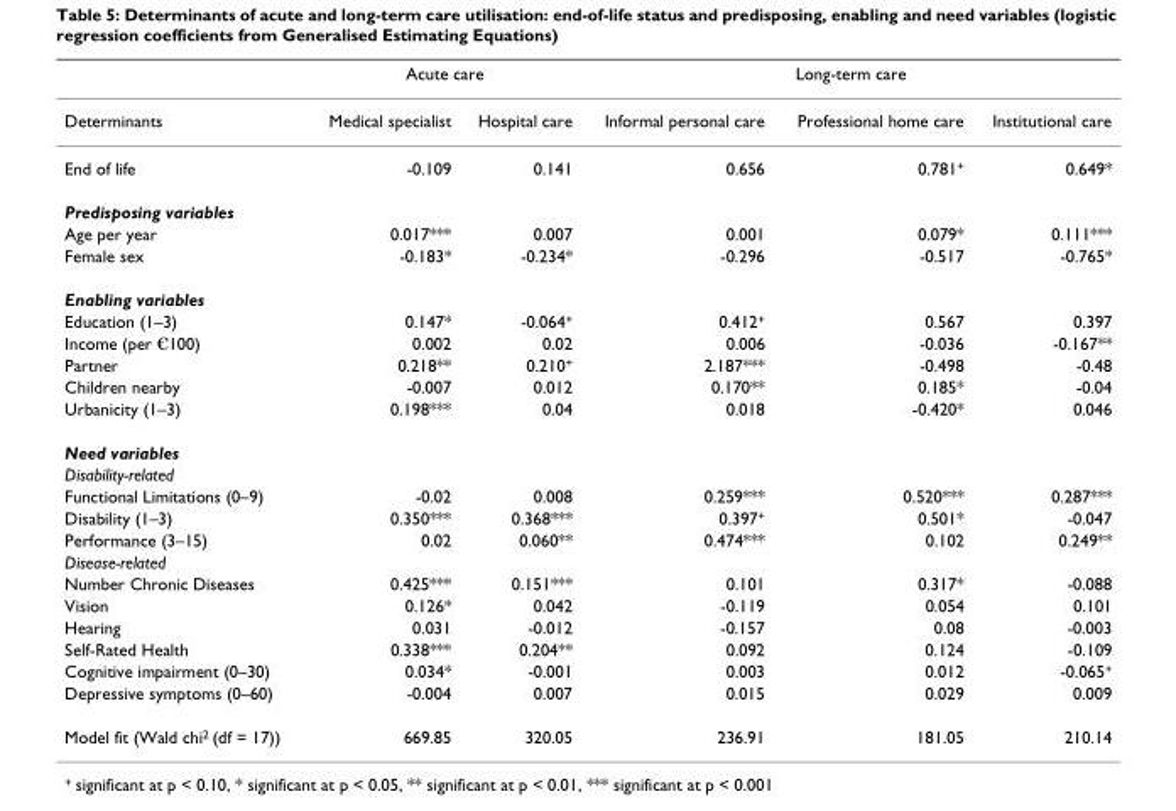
<table><thead><tr><td rowspan="2">Determinants</td><td colspan="2">Acute care</td><td colspan="3">Long-term care</td></tr><tr><td>Medical specialist</td><td>Hospital care</td><td>Informal personal care</td><td>Professional home care</td><td>Institutional care</td></tr></thead><tbody><tr><td>End of life</td><td>-0.109</td><td>0.141</td><td>0.656</td><td>0.781<sup>+</sup></td><td>0.649*</td></tr><tr><td colspan="6">Predisposing variables</td></tr><tr><td>Age per year</td><td>0.017***</td><td>0.007</td><td>0.001</td><td>0.079*</td><td>0.111***</td></tr><tr><td>Female sex</td><td>-0.183*</td><td>-0.234*</td><td>-0.296</td><td>-0.517</td><td>-0.765*</td></tr><tr><td colspan="6">Enabling variables</td></tr><tr><td>Education (1–3)</td><td>0.147*</td><td>-0.064<sup>+</sup></td><td>0.412<sup>+</sup></td><td>0.567</td><td>0.397</td></tr><tr><td>Income (per €100)</td><td>0.002</td><td>0.02</td><td>0.006</td><td>-0.036</td><td>-0.167**</td></tr><tr><td>Partner</td><td>0.218**</td><td>0.210<sup>+</sup></td><td>2.187***</td><td>-0.498</td><td>-0.48</td></tr><tr><td>Children nearby</td><td>-0.007</td><td>0.012</td><td>0.170**</td><td>0.185*</td><td>-0.04</td></tr><tr><td>Urbanicity (1–3)</td><td>0.198***</td><td>0.04</td><td>0.018</td><td>-0.420*</td><td>0.046</td></tr><tr><td colspan="6">Need variables</td></tr><tr><td colspan="6">Disability-related</td></tr><tr><td>Functional Limitations (0–9)</td><td>-0.02</td><td>0.008</td><td>0.259***</td><td>0.520***</td><td>0.287***</td></tr><tr><td>Disability (1–3)</td><td>0.350***</td><td>0.368***</td><td>0.397<sup>+</sup></td><td>0.501*</td><td>-0.047</td></tr><tr><td>Performance (3–15)</td><td>0.02</td><td>0.060**</td><td>0.474***</td><td>0.102</td><td>0.249**</td></tr><tr><td colspan="6">Disease-related</td></tr><tr><td>Number Chronic Diseases</td><td>0.425***</td><td>0.151***</td><td>0.101</td><td>0.317*</td><td>-0.088</td></tr><tr><td>Vision</td><td>0.126*</td><td>0.042</td><td>-0.119</td><td>0.054</td><td>0.101</td></tr><tr><td>Hearing</td><td>0.031</td><td>-0.012</td><td>-0.157</td><td>0.08</td><td>-0.003</td></tr><tr><td>Self-Rated Health</td><td>0.338***</td><td>0.204**</td><td>0.092</td><td>0.124</td><td>-0.109</td></tr><tr><td>Cognitive impairment (0–30)</td><td>0.034*</td><td>-0.001</td><td>0.003</td><td>0.012</td><td>-0.065<sup>+</sup></td></tr><tr><td>Depressive symptoms (0–60)</td><td>-0.004</td><td>0.007</td><td>0.015</td><td>0.029</td><td>0.009</td></tr><tr><td>Model fit (Wald chi<sup>2</sup> (df = 17))</td><td>669.85</td><td>320.05</td><td>236.91</td><td>181.05</td><td>210.14</td></tr></tbody></table>